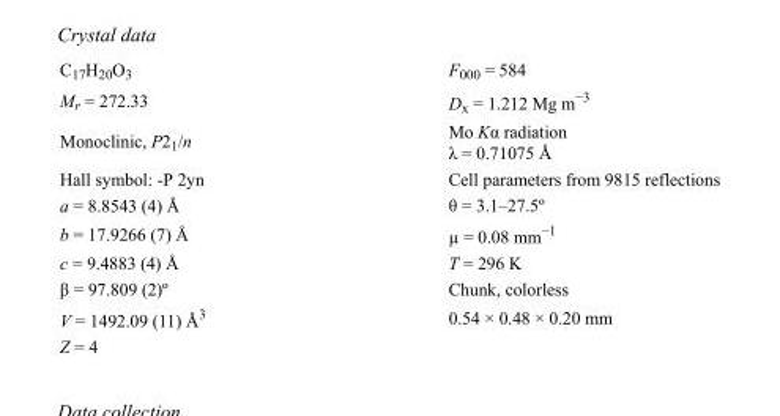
<table><tbody><tr><td>C<sub>17</sub>H<sub>20</sub>O<sub>3</sub></td><td>F000 = 584</td></tr><tr><td>M<sub>r</sub> = 272.33</td><td>D<sub>x</sub> = 1.212 Mg m<sup>−3</sup></td></tr><tr><td>Monoclinic, P2<sub>1</sub>/n</td><td>Mo Kα radiation λ = 0.71075 Å</td></tr><tr><td>Hall symbol: -P 2yn</td><td>Cell parameters from 9815 reflections</td></tr><tr><td>a = 8.8543 (4) Å</td><td>θ = 3.1–27.5º</td></tr><tr><td>b = 17.9266 (7) Å</td><td>µ = 0.08 mm<sup>−1</sup></td></tr><tr><td>c = 9.4883 (4) Å</td><td>T = 296 K</td></tr><tr><td>β = 97.809 (2)º</td><td>Chunk, colorless</td></tr><tr><td>V = 1492.09 (11) Å<sup>3</sup></td><td>0.54 × 0.48 × 0.20 mm</td></tr><tr><td>Z = 4</td><td></td></tr></tbody></table>